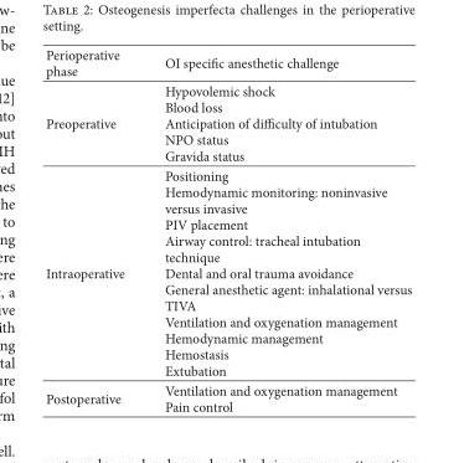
<table><thead><tr><td>Perioperative phase</td><td>OI specific anesthetic challenge</td></tr></thead><tbody><tr><td>Preoperative</td><td>Hypovolemic shock Blood loss Anticipation of difficulty of intubation NPO status Gravida status</td></tr><tr><td>Intraoperative</td><td>Positioning Hemodynamic monitoring: noninvasive versus invasive PIV placement Airway control: tracheal intubation technique Dental and oral trauma avoidance General anesthetic agent: inhalational versus TIVA Ventilation and oxygenation management Hemodynamic management Hemostasis Extubation</td></tr><tr><td>Postoperative</td><td>Ventilation and oxygenation management Pain control</td></tr></tbody></table>